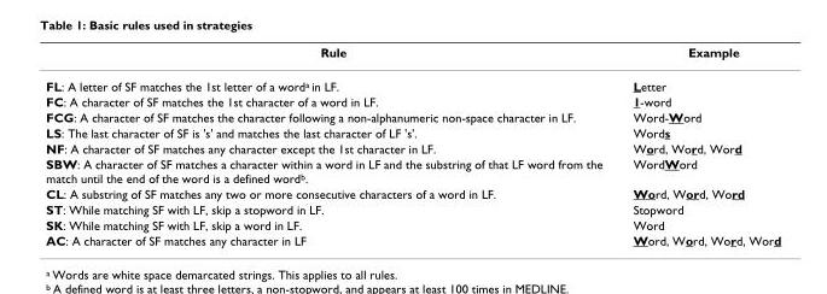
<table><thead><tr><td>Rule</td><td>Example</td></tr></thead><tbody><tr><td>FL: A letter of SF matches the 1st letter of a word<sup>a</sup> in LF.</td><td>Letter</td></tr><tr><td>FC: A character of SF matches the 1st character of a word in LF.</td><td>1-word</td></tr><tr><td>FCG: A character of SF matches the character following a non-alphanumeric non-space character in LF.</td><td>Word-Word</td></tr><tr><td>LS: The last character of SF is &#x27;s&#x27; and matches the last character of LF &#x27;s&#x27;.</td><td>Words</td></tr><tr><td>NF: A character of SF matches any character except the 1st character in LF.</td><td>Word, Word, Word</td></tr><tr><td>SBW: A character of SF matches a character within a word in LF and the substring of that LF word from the match until the end of the word is a defined word<sup>b</sup>.</td><td>WordWord</td></tr><tr><td>CL: A substring of SF matches any two or more consecutive characters of a word in LF.</td><td>Word, Word, Word</td></tr><tr><td>ST: While matching SF with LF, skip a stopword in LF.</td><td>Stopword</td></tr><tr><td>SK: While matching SF with LF, skip a word in LF.</td><td>Word</td></tr><tr><td>AC: A character of SF matches any character in LF</td><td>Word, Word, Word, Word</td></tr></tbody></table>